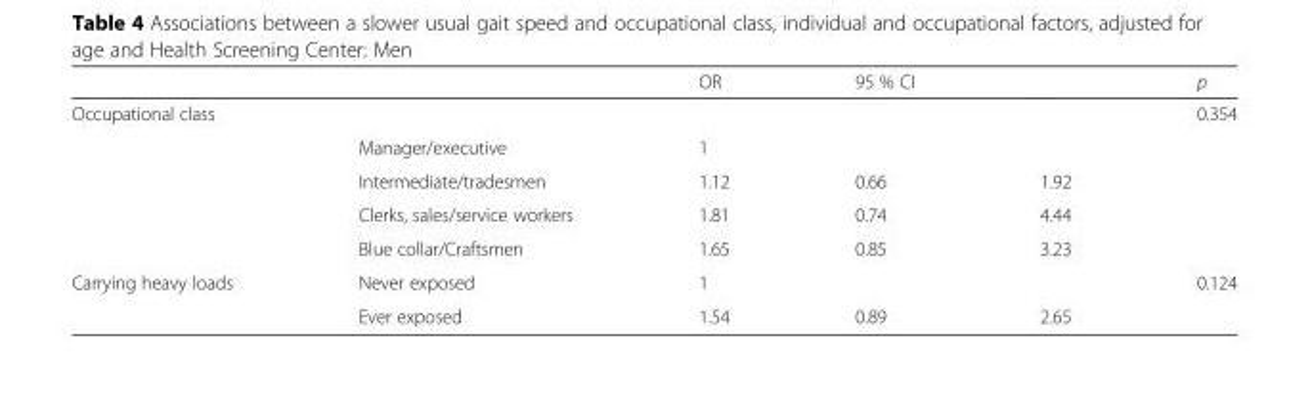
<table><thead><tr><td></td><td></td><td>OR</td><td>95 % CI</td><td></td><td>p</td></tr></thead><tbody><tr><td rowspan="5">Occupational class</td><td></td><td></td><td></td><td></td><td>0.354</td></tr><tr><td>Manager/executive</td><td>1</td><td></td><td></td><td></td></tr><tr><td>Intermediate/tradesmen</td><td>1.12</td><td>0.66</td><td>1.92</td><td></td></tr><tr><td>Clerks, sales/service workers</td><td>1.81</td><td>0.74</td><td>4.44</td><td></td></tr><tr><td>Blue collar/Craftsmen</td><td>1.65</td><td>0.85</td><td>3.23</td><td></td></tr><tr><td rowspan="2">Carrying heavy loads</td><td>Never exposed</td><td>1</td><td></td><td></td><td>0.124</td></tr><tr><td>Ever exposed</td><td>1.54</td><td>0.89</td><td>2.65</td><td></td></tr></tbody></table>